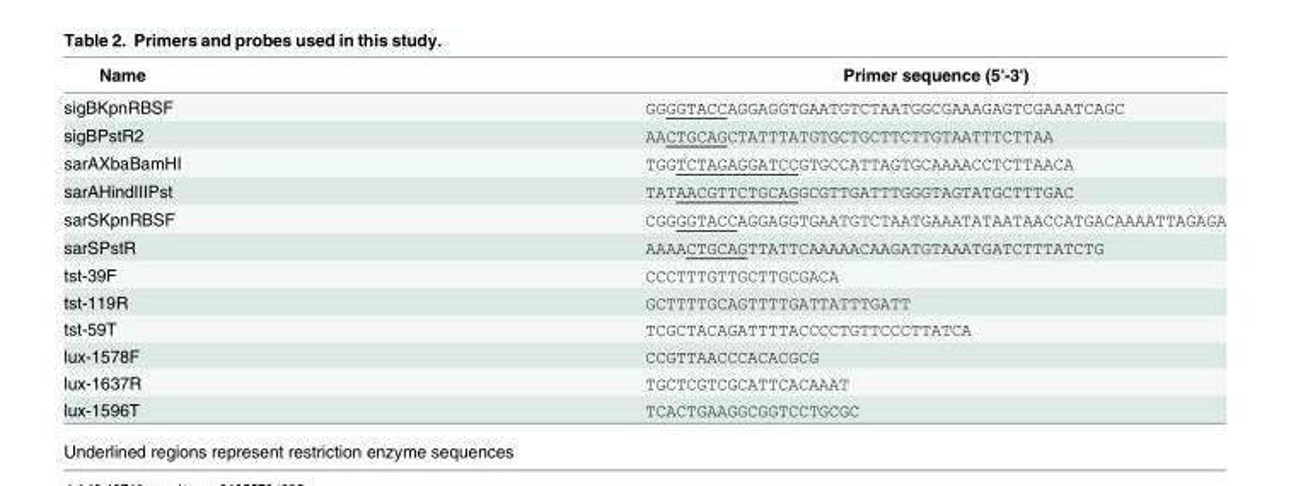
<table><thead><tr><td>Name</td><td>Primer sequence (5&#x27;-3&#x27;)</td></tr></thead><tbody><tr><td>sigBKpnRBSF</td><td>GGGGTACCAGGAGGTGAATGTCTAATGGCGAAAGAGTCGAAATCAGC</td></tr><tr><td>sigBPstR2</td><td>AACTGCAGCTATTTATGTGCTGCTTCTTGTAATTTCTTAA</td></tr><tr><td>sarAXbaBamHI</td><td>TGGTCTAGAGGATCCGTGCCATTAGTGCAAAACCTCTTAACA</td></tr><tr><td>sarAHindIIIPst</td><td>TATAACGTTCTGCAGGCGTTGATTTGGGTAGTATGCTTTGAC</td></tr><tr><td>sarSKpnRBSF</td><td>CGGGGTACCAGGAGGTGAATGTCTAATGAAATATAATAACCATGACAAAATTAGAGA</td></tr><tr><td>sarSPstR</td><td>AAAACTGCAGTTATTCAAAAACAAGATGTAAATGATCTTTATCTG</td></tr><tr><td>tst-39F</td><td>CCCTTTGTTGCTTGCGACA</td></tr><tr><td>tst-119R</td><td>GCTTTTGCAGTTTTGATTATTTGATT</td></tr><tr><td>tst-59T</td><td>TCGCTACAGATTTTACCCCTGTTCCCTTATCA</td></tr><tr><td>lux-1578F</td><td>CCGTTAACCCACACGCG</td></tr><tr><td>lux-1637R</td><td>TGCTCGTCGCATTCACAAAT</td></tr><tr><td>lux-1596T</td><td>TCACTGAAGGCGGTCCTGCGC</td></tr></tbody></table>